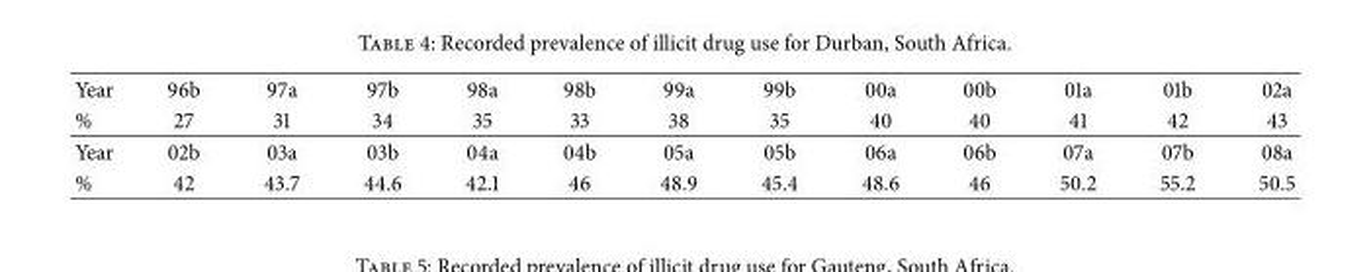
<table><tbody><tr><td>Year</td><td>96b</td><td>97a</td><td>97b</td><td>98a</td><td>98b</td><td>99a</td><td>99b</td><td>00a</td><td>00b</td><td>01a</td><td>01b</td><td>02a</td></tr><tr><td>%</td><td>27</td><td>31</td><td>34</td><td>35</td><td>33</td><td>38</td><td>35</td><td>40</td><td>40</td><td>41</td><td>42</td><td>43</td></tr><tr><td>Year</td><td>02b</td><td>03a</td><td>03b</td><td>04a</td><td>04b</td><td>05a</td><td>05b</td><td>06a</td><td>06b</td><td>07a</td><td>07b</td><td>08a</td></tr><tr><td>%</td><td>42</td><td>43.7</td><td>44.6</td><td>42.1</td><td>46</td><td>48.9</td><td>45.4</td><td>48.6</td><td>46</td><td>50.2</td><td>55.2</td><td>50.5</td></tr></tbody></table>